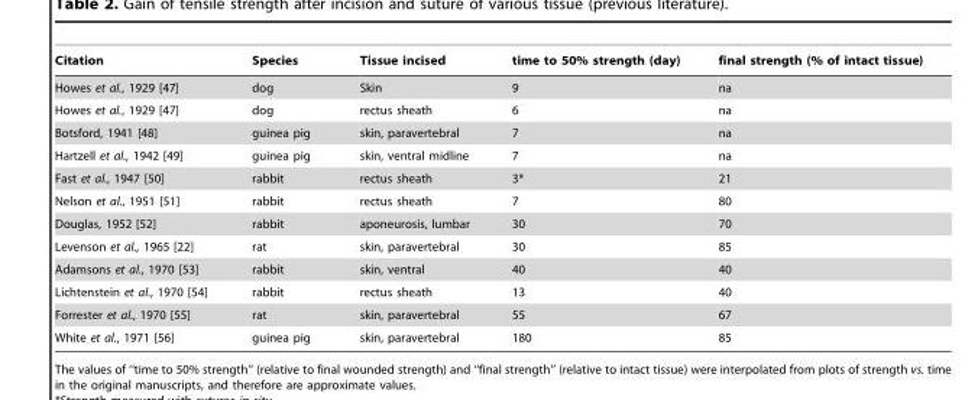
<table><thead><tr><td>Citation</td><td>Species</td><td>Tissue incised</td><td>time to 50% strength (day)</td><td>final strength (% of intact tissue)</td></tr></thead><tbody><tr><td>Howes et al., 1929 [47]</td><td>dog</td><td>Skin</td><td>9</td><td>na</td></tr><tr><td>Howes et al., 1929 [47]</td><td>dog</td><td>rectus sheath</td><td>6</td><td>na</td></tr><tr><td>Botsford, 1941 [48]</td><td>guinea pig</td><td>skin, paravertebral</td><td>7</td><td>na</td></tr><tr><td>Hartzell et al., 1942 [49]</td><td>guinea pig</td><td>skin, ventral midline</td><td>7</td><td>na</td></tr><tr><td>Fast et al., 1947 [50]</td><td>rabbit</td><td>rectus sheath</td><td>3*</td><td>21</td></tr><tr><td>Nelson et al., 1951 [51]</td><td>rabbit</td><td>rectus sheath</td><td>7</td><td>80</td></tr><tr><td>Douglas, 1952 [52]</td><td>rabbit</td><td>aponeurosis, lumbar</td><td>30</td><td>70</td></tr><tr><td>Levenson et al., 1965 [22]</td><td>rat</td><td>skin, paravertebral</td><td>30</td><td>85</td></tr><tr><td>Adamsons et al., 1970 [53]</td><td>rabbit</td><td>skin, ventral</td><td>40</td><td>40</td></tr><tr><td>Lichtenstein et al., 1970 [54]</td><td>rabbit</td><td>rectus sheath</td><td>13</td><td>40</td></tr><tr><td>Forrester et al., 1970 [55]</td><td>rat</td><td>skin, paravertebral</td><td>55</td><td>67</td></tr><tr><td>White et al., 1971 [56]</td><td>guinea pig</td><td>skin, paravertebral</td><td>180</td><td>85</td></tr></tbody></table>